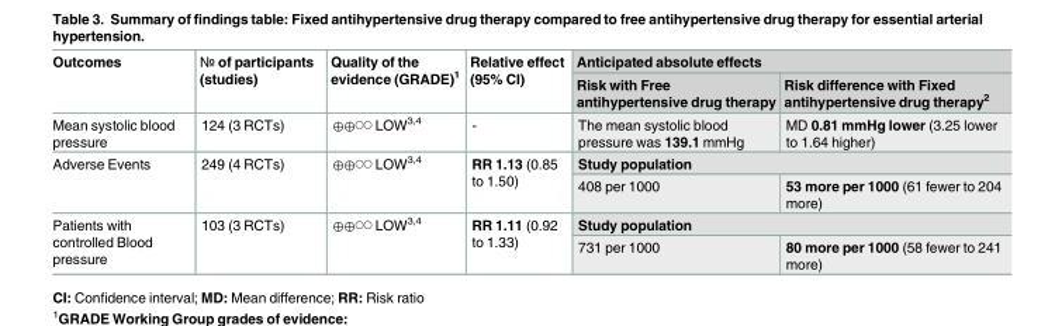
<table><thead><tr><td rowspan="2">Outcomes</td><td rowspan="2">№ of participants (studies)</td><td rowspan="2">Quality of the evidence (GRADE)<sup>1</sup></td><td rowspan="2">Relative effect (95% CI)</td><td colspan="2">Anticipated absolute effects</td></tr><tr><td>Risk with Free antihypertensive drug therapy</td><td>Risk difference with Fixed antihypertensive drug therapy<sup>2</sup></td></tr></thead><tbody><tr><td>Mean systolic blood pressure</td><td>124 (3 RCTs)</td><td>⊕⊕◯◯ LOW3,4</td><td>-</td><td>The mean systolic blood pressure was 139.1 mmHg</td><td>MD 0.81 mmHg lower (3.25 lower to 1.64 higher)</td></tr><tr><td rowspan="2">Adverse Events</td><td rowspan="2">249 (4 RCTs)</td><td rowspan="2">⊕⊕◯◯ LOW3,4</td><td rowspan="2">RR 1.13 (0.85 to 1.50)</td><td colspan="2">Study population</td></tr><tr><td>408 per 1000</td><td>53 more per 1000 (61 fewer to 204 more)</td></tr><tr><td rowspan="2">Patients with controlled Blood pressure</td><td rowspan="2">103 (3 RCTs)</td><td rowspan="2">⊕⊕◯◯ LOW3,4</td><td rowspan="2">RR 1.11 (0.92 to 1.33)</td><td colspan="2">Study population</td></tr><tr><td>731 per 1000</td><td>80 more per 1000 (58 fewer to 241 more)</td></tr></tbody></table>